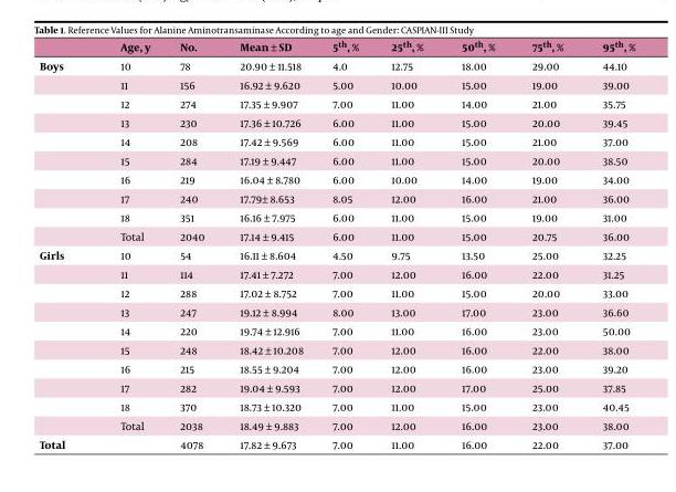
<table><thead><tr><td></td><td>Age, y</td><td>No.</td><td>Mean ± SD</td><td>5<sup>th</sup>, %</td><td>25<sup>th</sup>, %</td><td>50<sup>th</sup>, %</td><td>75<sup>th</sup>, %</td><td>95<sup>th</sup>, %</td></tr></thead><tbody><tr><td rowspan="10">Boys</td><td>10</td><td>78</td><td>20.90 ± 11.518</td><td>4.0</td><td>12.75</td><td>18.00</td><td>29.00</td><td>44.10</td></tr><tr><td>11</td><td>156</td><td>16.92 ± 9.620</td><td>5.00</td><td>10.00</td><td>15.00</td><td>19.00</td><td>39.00</td></tr><tr><td>12</td><td>274</td><td>17.35 ± 9.907</td><td>7.00</td><td>11.00</td><td>14.00</td><td>21.00</td><td>35.75</td></tr><tr><td>13</td><td>230</td><td>17.36 ± 10.726</td><td>6.00</td><td>11.00</td><td>15.00</td><td>20.00</td><td>39.45</td></tr><tr><td>14</td><td>208</td><td>17.42 ± 9.569</td><td>6.00</td><td>11.00</td><td>15.00</td><td>21.00</td><td>37.00</td></tr><tr><td>15</td><td>284</td><td>17.19 ± 9.447</td><td>6.00</td><td>11.00</td><td>15.00</td><td>20.00</td><td>38.50</td></tr><tr><td>16</td><td>219</td><td>16.04 ± 8.780</td><td>6.00</td><td>10.00</td><td>14.00</td><td>19.00</td><td>34.00</td></tr><tr><td>17</td><td>240</td><td>17.79± 8.653</td><td>8.05</td><td>12.00</td><td>16.00</td><td>21.00</td><td>36.00</td></tr><tr><td>18</td><td>351</td><td>16.16 ± 7.975</td><td>6.00</td><td>11.00</td><td>15.00</td><td>19.00</td><td>31.00</td></tr><tr><td>Total</td><td>2040</td><td>17.14 ± 9.415</td><td>6.00</td><td>11.00</td><td>15.00</td><td>20.75</td><td>36.00</td></tr><tr><td rowspan="10">Girls</td><td>10</td><td>54</td><td>16.11 ± 8.604</td><td>4.50</td><td>9.75</td><td>13.50</td><td>25.00</td><td>32.25</td></tr><tr><td>11</td><td>114</td><td>17.41 ± 7.272</td><td>7.00</td><td>12.00</td><td>16.00</td><td>22.00</td><td>31.25</td></tr><tr><td>12</td><td>288</td><td>17.02 ± 8.752</td><td>7.00</td><td>11.00</td><td>15.00</td><td>20.00</td><td>33.00</td></tr><tr><td>13</td><td>247</td><td>19.12 ± 8.994</td><td>8.00</td><td>13.00</td><td>17.00</td><td>23.00</td><td>36.60</td></tr><tr><td>14</td><td>220</td><td>19.74 ± 12.916</td><td>7.00</td><td>11.00</td><td>16.00</td><td>23.00</td><td>50.00</td></tr><tr><td>15</td><td>248</td><td>18.42 ± 10.208</td><td>7.00</td><td>12.00</td><td>16.00</td><td>22.00</td><td>38.00</td></tr><tr><td>16</td><td>215</td><td>18.55 ± 9.204</td><td>7.00</td><td>12.00</td><td>16.00</td><td>23.00</td><td>39.20</td></tr><tr><td>17</td><td>282</td><td>19.04 ± 9.593</td><td>7.00</td><td>12.00</td><td>17.00</td><td>25.00</td><td>37.85</td></tr><tr><td>18</td><td>370</td><td>18.73 ± 10.320</td><td>7.00</td><td>11.00</td><td>15.00</td><td>23.00</td><td>40.45</td></tr><tr><td>Total</td><td>2038</td><td>18.49 ± 9.883</td><td>7.00</td><td>12.00</td><td>16.00</td><td>23.00</td><td>38.00</td></tr><tr><td>Total</td><td></td><td>4078</td><td>17.82 ± 9.673</td><td>7.00</td><td>11.00</td><td>16.00</td><td>22.00</td><td>37.00</td></tr></tbody></table>